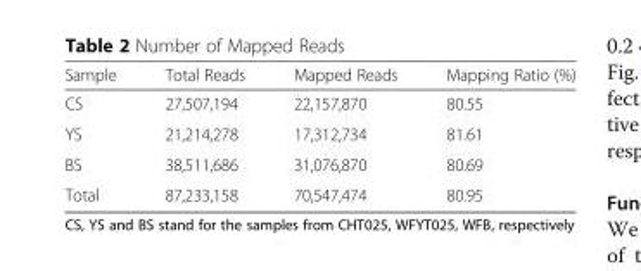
<table><thead><tr><td>Sample</td><td>Total Reads</td><td>Mapped Reads</td><td>Mapping Ratio (%)</td></tr></thead><tbody><tr><td>CS</td><td>27,507,194</td><td>22,157,870</td><td>80.55</td></tr><tr><td>YS</td><td>21,214,278</td><td>17,312,734</td><td>81.61</td></tr><tr><td>BS</td><td>38,511,686</td><td>31,076,870</td><td>80.69</td></tr><tr><td>Total</td><td>87,233,158</td><td>70,547,474</td><td>80.95</td></tr></tbody></table>